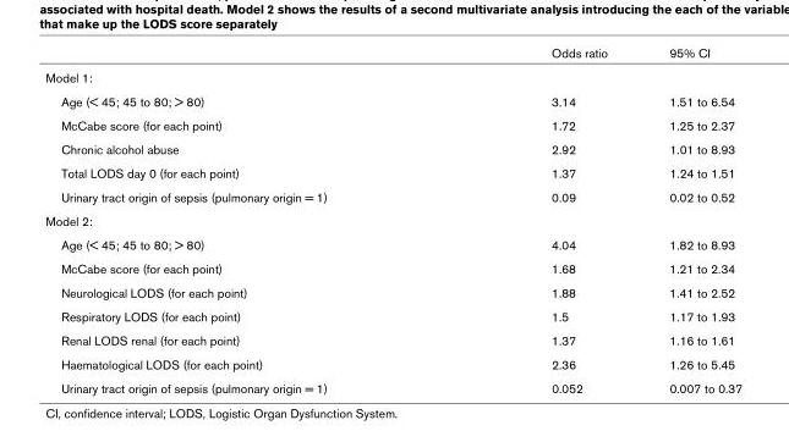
<table><thead><tr><td></td><td>Odds ratio</td><td>95% CI</td></tr></thead><tbody><tr><td colspan="3">Model 1:</td></tr><tr><td>Age (&lt; 45; 45 to 80; &gt; 80)</td><td>3.14</td><td>1.51 to 6.54</td></tr><tr><td>McCabe score (for each point)</td><td>1.72</td><td>1.25 to 2.37</td></tr><tr><td>Chronic alcohol abuse</td><td>2.92</td><td>1.01 to 8.93</td></tr><tr><td>Total LODS day 0 (for each point)</td><td>1.37</td><td>1.24 to 1.51</td></tr><tr><td>Urinary tract origin of sepsis (pulmonary origin = 1)</td><td>0.09</td><td>0.02 to 0.52</td></tr><tr><td colspan="3">Model 2:</td></tr><tr><td>Age (&lt; 45; 45 to 80; &gt; 80)</td><td>4.04</td><td>1.82 to 8.93</td></tr><tr><td>McCabe score (for each point)</td><td>1.68</td><td>1.21 to 2.34</td></tr><tr><td>Neurological LODS (for each point)</td><td>1.88</td><td>1.41 to 2.52</td></tr><tr><td>Respiratory LODS (for each point)</td><td>1.5</td><td>1.17 to 1.93</td></tr><tr><td>Renal LODS renal (for each point)</td><td>1.37</td><td>1.16 to 1.61</td></tr><tr><td>Haematological LODS (for each point)</td><td>2.36</td><td>1.26 to 5.45</td></tr><tr><td>Urinary tract origin of sepsis (pulmonary origin = 1)</td><td>0.052</td><td>0.007 to 0.37</td></tr></tbody></table>